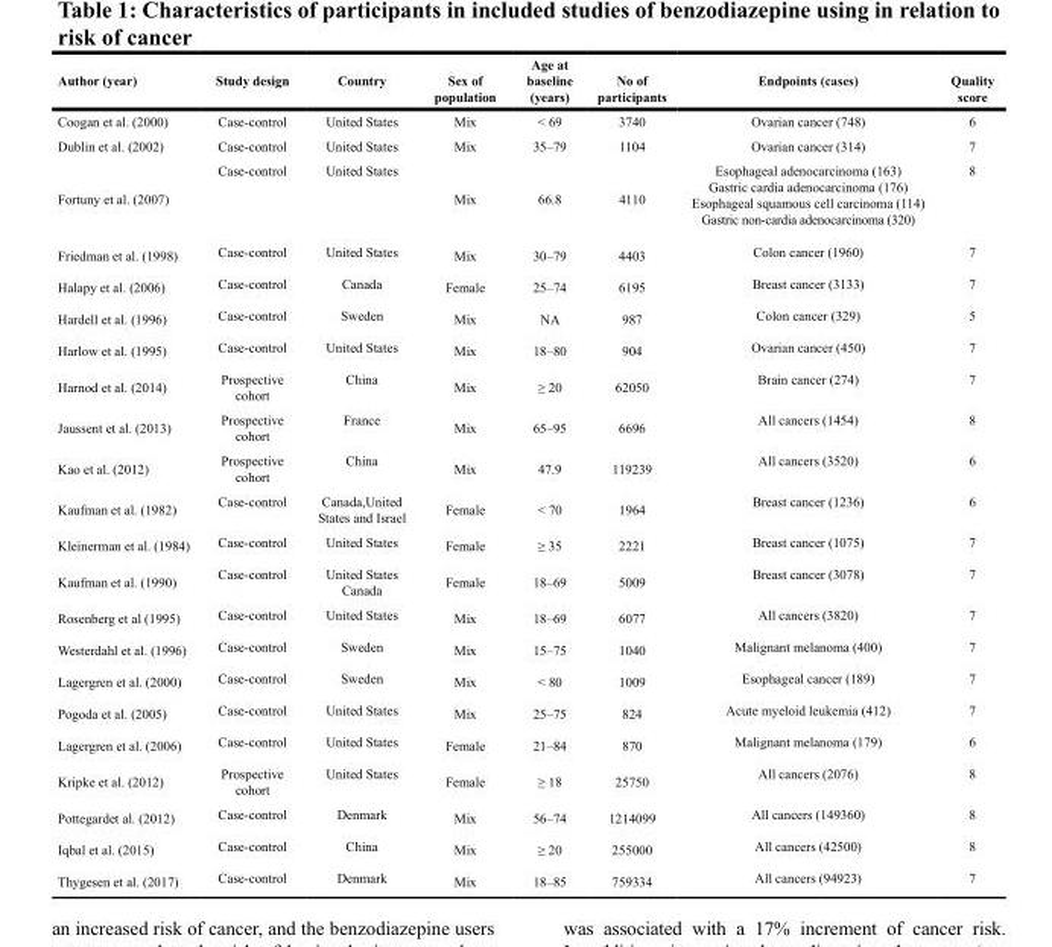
<table><thead><tr><td>Author (year)</td><td>Study design</td><td>Country</td><td>Sex of population</td><td>Age at baseline (years)</td><td>No of participants</td><td>Endpoints (cases)</td><td>Quality score</td></tr></thead><tbody><tr><td>Coogan et al. (2000)</td><td>Case-control</td><td>United States</td><td>Mix</td><td>&lt; 69</td><td>3740</td><td>Ovarian cancer (748)</td><td>6</td></tr><tr><td>Dublin et al. (2002)</td><td>Case-control</td><td>United States</td><td>Mix</td><td>35–79</td><td>1104</td><td>Ovarian cancer (314)</td><td>7</td></tr><tr><td>Fortuny et al. (2007)</td><td>Case-control</td><td>United States</td><td>Mix</td><td>66.8</td><td>4110</td><td>Esophageal adenocarcinoma (163) Gastric cardia adenocarcinoma (176) Esophageal squamous cell carcinoma (114) Gastric non-cardia adenocarcinoma (320)</td><td>8</td></tr><tr><td>Friedman et al. (1998)</td><td>Case-control</td><td>United States</td><td>Mix</td><td>30–79</td><td>4403</td><td>Colon cancer (1960)</td><td>7</td></tr><tr><td>Halapy et al. (2006)</td><td>Case-control</td><td>Canada</td><td>Female</td><td>25–74</td><td>6195</td><td>Breast cancer (3133)</td><td>7</td></tr><tr><td>Hardell et al. (1996)</td><td>Case-control</td><td>Sweden</td><td>Mix</td><td>NA</td><td>987</td><td>Colon cancer (329)</td><td>5</td></tr><tr><td>Harlow et al. (1995)</td><td>Case-control</td><td>United States</td><td>Mix</td><td>18–80</td><td>904</td><td>Ovarian cancer (450)</td><td>7</td></tr><tr><td>Harnod et al. (2014)</td><td>Prospective cohort</td><td>China</td><td>Mix</td><td>≥ 20</td><td>62050</td><td>Brain cancer (274)</td><td>7</td></tr><tr><td>Jaussent et al. (2013)</td><td>Prospective cohort</td><td>France</td><td>Mix</td><td>65–95</td><td>6696</td><td>All cancers (1454)</td><td>8</td></tr><tr><td>Kao et al. (2012)</td><td>Prospective cohort</td><td>China</td><td>Mix</td><td>47.9</td><td>119239</td><td>All cancers (3520)</td><td>6</td></tr><tr><td>Kaufman et al. (1982)</td><td>Case-control</td><td>Canada,United States and Israel</td><td>Female</td><td>&lt; 70</td><td>1964</td><td>Breast cancer (1236)</td><td>6</td></tr><tr><td>Kleinerman et al. (1984)</td><td>Case-control</td><td>United States</td><td>Female</td><td>≥ 35</td><td>2221</td><td>Breast cancer (1075)</td><td>7</td></tr><tr><td>Kaufman et al. (1990)</td><td>Case-control</td><td>United States Canada</td><td>Female</td><td>18–69</td><td>5009</td><td>Breast cancer (3078)</td><td>7</td></tr><tr><td>Rosenberg et al (1995)</td><td>Case-control</td><td>United States</td><td>Mix</td><td>18–69</td><td>6077</td><td>All cancers (3820)</td><td>7</td></tr><tr><td>Westerdahl et al. (1996)</td><td>Case-control</td><td>Sweden</td><td>Mix</td><td>15–75</td><td>1040</td><td>Malignant melanoma (400)</td><td>7</td></tr><tr><td>Lagergren et al. (2000)</td><td>Case-control</td><td>Sweden</td><td>Mix</td><td>&lt; 80</td><td>1009</td><td>Esophageal cancer (189)</td><td>7</td></tr><tr><td>Pogoda et al. (2005)</td><td>Case-control</td><td>United States</td><td>Mix</td><td>25–75</td><td>824</td><td>Acute myeloid leukemia (412)</td><td>7</td></tr><tr><td>Lagergren et al. (2006)</td><td>Case-control</td><td>United States</td><td>Female</td><td>21–84</td><td>870</td><td>Malignant melanoma (179)</td><td>6</td></tr><tr><td>Kripke et al. (2012)</td><td>Prospective cohort</td><td>United States</td><td>Female</td><td>≥ 18</td><td>25750</td><td>All cancers (2076)</td><td>8</td></tr><tr><td>Pottegardet al. (2012)</td><td>Case-control</td><td>Denmark</td><td>Mix</td><td>56–74</td><td>1214099</td><td>All cancers (149360)</td><td>8</td></tr><tr><td>Iqbal et al. (2015)</td><td>Case-control</td><td>China</td><td>Mix</td><td>≥ 20</td><td>255000</td><td>All cancers (42500)</td><td>8</td></tr><tr><td>Thygesen et al. (2017)</td><td>Case-control</td><td>Denmark</td><td>Mix</td><td>18–85</td><td>759334</td><td>All cancers (94923)</td><td>7</td></tr></tbody></table>